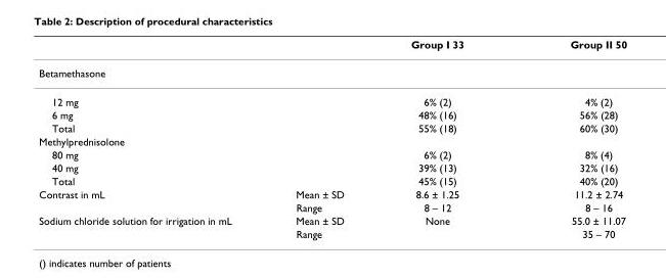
<table><thead><tr><td></td><td></td><td>Group I 33</td><td>Group II 50</td></tr></thead><tbody><tr><td colspan="4">Betamethasone</td></tr><tr><td>12 mg</td><td></td><td>6% (2)</td><td>4% (2)</td></tr><tr><td>6 mg</td><td></td><td>48% (16)</td><td>56% (28)</td></tr><tr><td>Total</td><td></td><td>55% (18)</td><td>60% (30)</td></tr><tr><td colspan="4">Methylprednisolone</td></tr><tr><td>80 mg</td><td></td><td>6% (2)</td><td>8% (4)</td></tr><tr><td>40 mg</td><td></td><td>39% (13)</td><td>32% (16)</td></tr><tr><td>Total</td><td></td><td>45% (15)</td><td>40% (20)</td></tr><tr><td rowspan="2">Contrast in mL</td><td>Mean ± SD</td><td>8.6 ± 1.25</td><td>11.2 ± 2.74</td></tr><tr><td>Range</td><td>8 – 12</td><td>8 – 16</td></tr><tr><td rowspan="2">Sodium chloride solution for irrigation in mL</td><td>Mean ± SD</td><td>None</td><td>55.0 ± 11.07</td></tr><tr><td>Range</td><td></td><td>35 – 70</td></tr></tbody></table>